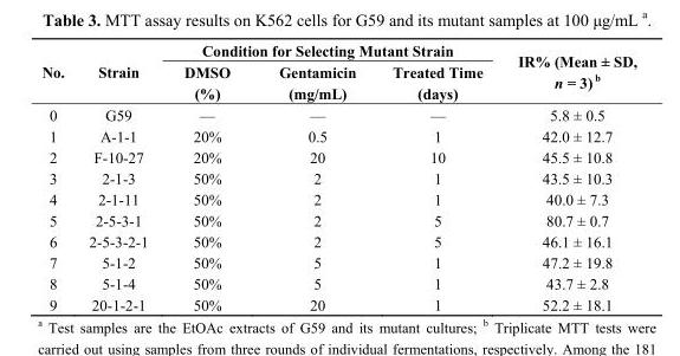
<table><thead><tr><td rowspan="2">No.</td><td rowspan="2">Strain</td><td colspan="3">Condition for Selecting Mutant Strain</td><td rowspan="2">IR% (Mean ± SD, n = 3) <sup>b</sup></td></tr><tr><td>DMSO (%)</td><td>Gentamicin (mg/mL)</td><td>Treated Time (days)</td></tr></thead><tbody><tr><td>0</td><td>G59</td><td>—</td><td>—</td><td>—</td><td>5.8 ± 0.5</td></tr><tr><td>1</td><td>A-1-1</td><td>20%</td><td>0.5</td><td>1</td><td>42.0 ± 12.7</td></tr><tr><td>2</td><td>F-10-27</td><td>20%</td><td>20</td><td>10</td><td>45.5 ± 10.8</td></tr><tr><td>3</td><td>2-1-3</td><td>50%</td><td>2</td><td>1</td><td>43.5 ± 10.3</td></tr><tr><td>4</td><td>2-1-11</td><td>50%</td><td>2</td><td>1</td><td>40.0 ± 7.3</td></tr><tr><td>5</td><td>2-5-3-1</td><td>50%</td><td>2</td><td>5</td><td>80.7 ± 0.7</td></tr><tr><td>6</td><td>2-5-3-2-1</td><td>50%</td><td>2</td><td>5</td><td>46.1 ± 16.1</td></tr><tr><td>7</td><td>5-1-2</td><td>50%</td><td>5</td><td>1</td><td>47.2 ± 19.8</td></tr><tr><td>8</td><td>5-1-4</td><td>50%</td><td>5</td><td>1</td><td>43.7 ± 2.8</td></tr><tr><td>9</td><td>20-1-2-1</td><td>50%</td><td>20</td><td>1</td><td>52.2 ± 18.1</td></tr></tbody></table>